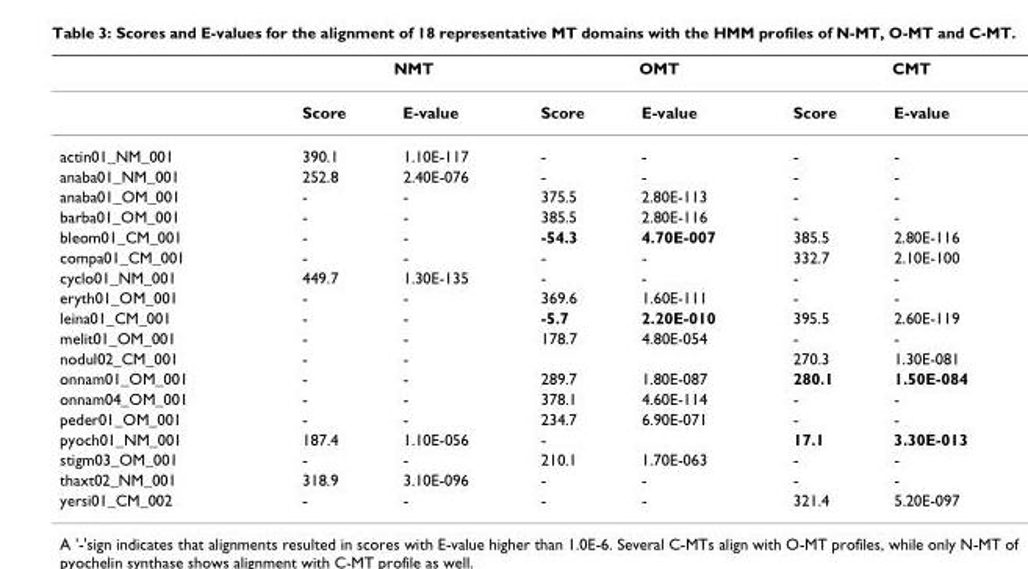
<table><thead><tr><td rowspan="2"></td><td colspan="2">NMT</td><td colspan="2">OMT</td><td colspan="2">CMT</td></tr><tr><td>Score</td><td>E-value</td><td>Score</td><td>E-value</td><td>Score</td><td>E-value</td></tr></thead><tbody><tr><td>actin01_NM_001</td><td>390.1</td><td>1.10E-117</td><td>-</td><td>-</td><td>-</td><td>-</td></tr><tr><td>anaba01_NM_001</td><td>252.8</td><td>2.40E-076</td><td>-</td><td>-</td><td>-</td><td>-</td></tr><tr><td>anaba01_OM_001</td><td>-</td><td>-</td><td>375.5</td><td>2.80E-113</td><td>-</td><td>-</td></tr><tr><td>barba01_OM_001</td><td>-</td><td>-</td><td>385.5</td><td>2.80E-116</td><td>-</td><td>-</td></tr><tr><td>bleom01_CM_001</td><td>-</td><td>-</td><td>-54.3</td><td>4.70E-007</td><td>385.5</td><td>2.80E-116</td></tr><tr><td>compa01_CM_001</td><td>-</td><td>-</td><td>-</td><td>-</td><td>332.7</td><td>2.10E-100</td></tr><tr><td>cyclo01_NM_001</td><td>449.7</td><td>1.30E-135</td><td>-</td><td>-</td><td>-</td><td>-</td></tr><tr><td>eryth01_OM_001</td><td>-</td><td>-</td><td>369.6</td><td>1.60E-111</td><td>-</td><td>-</td></tr><tr><td>leina01_CM_001</td><td>-</td><td>-</td><td>-5.7</td><td>2.20E-010</td><td>395.5</td><td>2.60E-119</td></tr><tr><td>melit01_OM_001</td><td>-</td><td>-</td><td>178.7</td><td>4.80E-054</td><td>-</td><td>-</td></tr><tr><td>nodul02_CM_001</td><td>-</td><td>-</td><td></td><td></td><td>270.3</td><td>1.30E-081</td></tr><tr><td>onnam01_OM_001</td><td>-</td><td>-</td><td>289.7</td><td>1.80E-087</td><td>280.1</td><td>1.50E-084</td></tr><tr><td>onnam04_OM_001</td><td>-</td><td>-</td><td>378.1</td><td>4.60E-114</td><td>-</td><td>-</td></tr><tr><td>peder01_OM_001</td><td>-</td><td>-</td><td>234.7</td><td>6.90E-071</td><td>-</td><td>-</td></tr><tr><td>pyoch01_NM_001</td><td>187.4</td><td>1.10E-056</td><td>-</td><td></td><td>17.1</td><td>3.30E-013</td></tr><tr><td>stigm03_OM_001</td><td>-</td><td>-</td><td>210.1</td><td>1.70E-063</td><td>-</td><td>-</td></tr><tr><td>thaxt02_NM_001</td><td>318.9</td><td>3.10E-096</td><td>-</td><td>-</td><td>-</td><td>-</td></tr><tr><td>yersi01_CM_002</td><td>-</td><td>-</td><td>-</td><td>-</td><td>321.4</td><td>5.20E-097</td></tr></tbody></table>